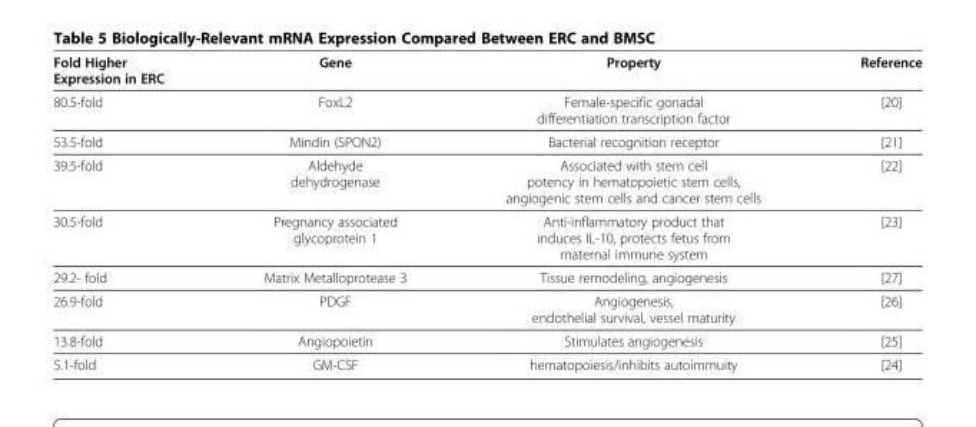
<table><thead><tr><td>Fold Higher Expression in ERC</td><td>Gene</td><td>Property</td><td>Reference</td></tr></thead><tbody><tr><td>80.5-fold</td><td>FoxL2</td><td>Female-specific gonadal differentiation transcription factor</td><td>[20]</td></tr><tr><td>53.5-fold</td><td>Mindin (SPON2)</td><td>Bacterial recognition receptor</td><td>[21]</td></tr><tr><td>39.5-fold</td><td>Aldehyde dehydrogenase</td><td>Associated with stem cell potency in hematopoietic stem cells, angiogenic stem cells and cancer stem cells</td><td>[22]</td></tr><tr><td>30.5-fold</td><td>Pregnancy associated glycoprotein 1</td><td>Anti-inflammatory product that induces IL-10, protects fetus from maternal immune system</td><td>[23]</td></tr><tr><td>29.2- fold</td><td>Matrix Metalloprotease 3</td><td>Tissue remodeling, angiogenesis</td><td>[27]</td></tr><tr><td>26.9-fold</td><td>PDGF</td><td>Angiogenesis, endothelial survival, vessel maturity</td><td>[26]</td></tr><tr><td>13.8-fold</td><td>Angiopoietin</td><td>Stimulates angiogenesis</td><td>[25]</td></tr><tr><td>5.1-fold</td><td>GM-CSF</td><td>hematopoiesis/inhibits autoimmuity</td><td>[24]</td></tr></tbody></table>